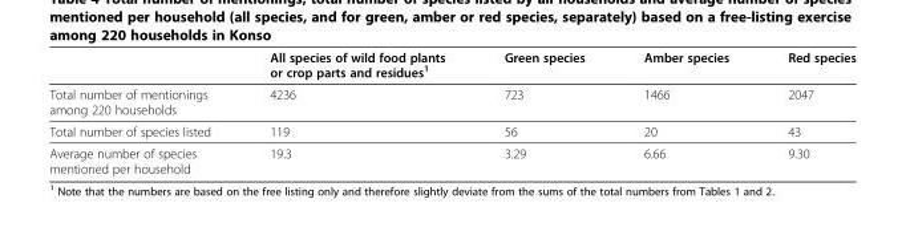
<table><thead><tr><td></td><td>All species of wild food plants or crop parts and residues<sup>1</sup></td><td>Green species</td><td>Amber species</td><td>Red species</td></tr></thead><tbody><tr><td>Total number of mentionings among 220 households</td><td>4236</td><td>723</td><td>1466</td><td>2047</td></tr><tr><td>Total number of species listed</td><td>119</td><td>56</td><td>20</td><td>43</td></tr><tr><td>Average number of species mentioned per household</td><td>19.3</td><td>3.29</td><td>6.66</td><td>9.30</td></tr></tbody></table>